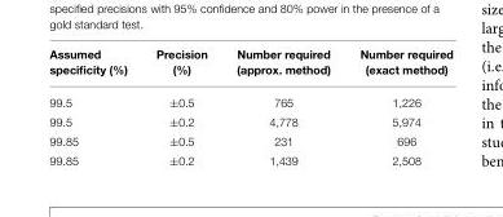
<table><thead><tr><td>Assumed specificity (%)</td><td>Precision (%)</td><td>Number required (approx. method)</td><td>Number required (exact method)</td></tr></thead><tbody><tr><td>99.5</td><td>±0.5</td><td>765</td><td>1,226</td></tr><tr><td>99.5</td><td>±0.2</td><td>4,778</td><td>5,974</td></tr><tr><td>99.85</td><td>±0.5</td><td>231</td><td>696</td></tr><tr><td>99.85</td><td>±0.2</td><td>1,439</td><td>2,508</td></tr></tbody></table>